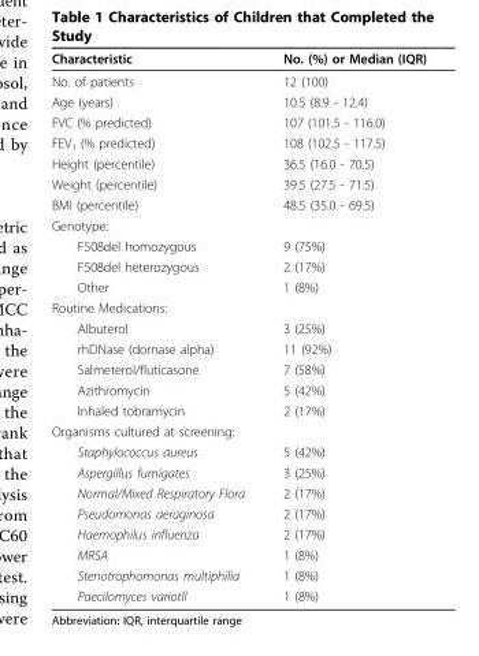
<table><thead><tr><td>Characteristic</td><td>No. (%) or Median (IQR)</td></tr></thead><tbody><tr><td>No. of patients</td><td>12 (100)</td></tr><tr><td>Age (years)</td><td>10.5 (8.9 - 12.4)</td></tr><tr><td>FVC (% predicted)</td><td>107 (101.5 - 116.0)</td></tr><tr><td>FEV<sub>1</sub> (% predicted)</td><td>108 (102.5 - 117.5)</td></tr><tr><td>Height (percentile)</td><td>36.5 (16.0 - 70.5)</td></tr><tr><td>Weight (percentile)</td><td>39.5 (27.5 - 71.5)</td></tr><tr><td>BMI (percentile)</td><td>48.5 (35.0 - 69.5)</td></tr><tr><td colspan="2">Genotype:</td></tr><tr><td>F508del homozygous</td><td>9 (75%)</td></tr><tr><td>F508del heterozygous</td><td>2 (17%)</td></tr><tr><td>Other</td><td>1 (8%)</td></tr><tr><td colspan="2">Routine Medications:</td></tr><tr><td>Albuterol</td><td>3 (25%)</td></tr><tr><td>rhDNase (dornase alpha)</td><td>11 (92%)</td></tr><tr><td>Salmeterol/fluticasone</td><td>7 (58%)</td></tr><tr><td>Azithromycin</td><td>5 (42%)</td></tr><tr><td>Inhaled tobramycin</td><td>2 (17%)</td></tr><tr><td colspan="2">Organisms cultured at screening:</td></tr><tr><td>Staphylococcus aureus</td><td>5 (42%)</td></tr><tr><td>Aspergillus fumigates</td><td>3 (25%)</td></tr><tr><td>Normal/Mixed Respiratory Flora</td><td>2 (17%)</td></tr><tr><td>Pseudomonas aeruginosa</td><td>2 (17%)</td></tr><tr><td>Haemophilus influenza</td><td>2 (17%)</td></tr><tr><td>MRSA</td><td>1 (8%)</td></tr><tr><td>Stenotrophomonas multiphilia</td><td>1 (8%)</td></tr><tr><td>Paecilomyces variotll</td><td>1 (8%)</td></tr></tbody></table>